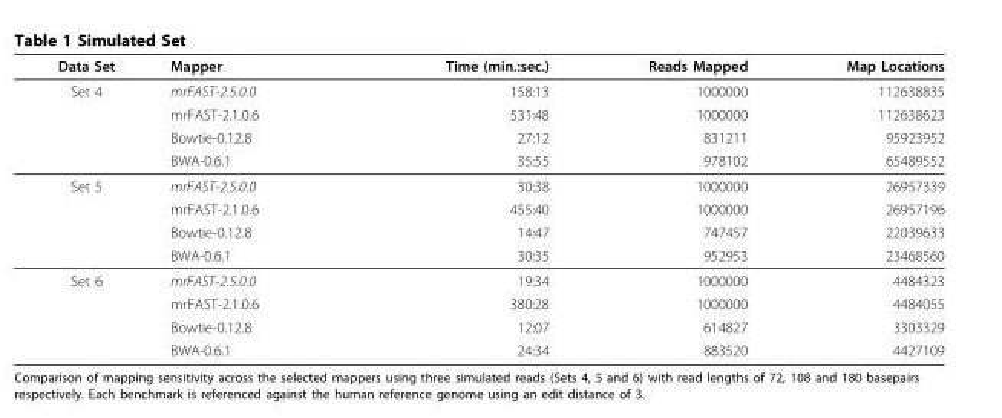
<table><thead><tr><td>Data Set</td><td>Mapper</td><td>Time (min.:sec.)</td><td>Reads Mapped</td><td>Map Locations</td></tr></thead><tbody><tr><td rowspan="4">Set 4</td><td>mrFAST-2.5.0.0</td><td>158:13</td><td>1000000</td><td>112638835</td></tr><tr><td>mrFAST-2.1.0.6</td><td>531:48</td><td>1000000</td><td>112638623</td></tr><tr><td>Bowtie-0.12.8</td><td>27:12</td><td>831211</td><td>95923952</td></tr><tr><td>BWA-0.6.1</td><td>35:55</td><td>978102</td><td>65489552</td></tr><tr><td rowspan="4">Set 5</td><td>mrFAST-2.5.0.0</td><td>30:38</td><td>1000000</td><td>26957339</td></tr><tr><td>mrFAST-2.1.0.6</td><td>455:40</td><td>1000000</td><td>26957196</td></tr><tr><td>Bowtie-0.12.8</td><td>14:47</td><td>747457</td><td>22039633</td></tr><tr><td>BWA-0.6.1</td><td>30:35</td><td>952953</td><td>23468560</td></tr><tr><td rowspan="4">Set 6</td><td>mrFAST-2.5.0.0</td><td>19:34</td><td>1000000</td><td>4484323</td></tr><tr><td>mrFAST-2.1.0.6</td><td>380:28</td><td>1000000</td><td>4484055</td></tr><tr><td>Bowtie-0.12.8</td><td>12:07</td><td>614827</td><td>3303329</td></tr><tr><td>BWA-0.6.1</td><td>24:34</td><td>883520</td><td>4427109</td></tr></tbody></table>